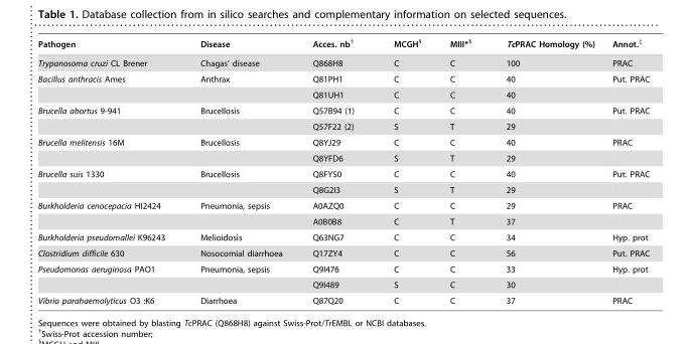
<table><thead><tr><td>Pathogen</td><td>Disease</td><td>Acces. nb†</td><td>MCGH§</td><td>MIII*§</td><td>TcPRAC Homology (%)</td><td>Annot.‡</td></tr></thead><tbody><tr><td>Trypanosoma cruzi CL Brener</td><td>Chagas’ disease</td><td>Q868H8</td><td>C</td><td>C</td><td>100</td><td>PRAC</td></tr><tr><td rowspan="2">Bacillus anthracis Ames</td><td>Anthrax</td><td>Q81PH1</td><td>C</td><td>C</td><td>40</td><td>Put. PRAC</td></tr><tr><td></td><td>Q81UH1</td><td>C</td><td>C</td><td>40</td><td></td></tr><tr><td rowspan="2">Brucella abortus 9-941</td><td>Brucellosis</td><td>Q57B94 (1)</td><td>C</td><td>C</td><td>40</td><td>Put. PRAC</td></tr><tr><td></td><td>Q57F22 (2)</td><td>S</td><td>T</td><td>29</td><td></td></tr><tr><td rowspan="2">Brucella melitensis 16M</td><td>Brucellosis</td><td>Q8YJ29</td><td>C</td><td>C</td><td>40</td><td>PRAC</td></tr><tr><td></td><td>Q8YFD6</td><td>S</td><td>T</td><td>29</td><td></td></tr><tr><td rowspan="2">Brucella suis 1330</td><td>Brucellosis</td><td>Q8FYS0</td><td>C</td><td>C</td><td>40</td><td>Put. PRAC</td></tr><tr><td></td><td>Q8G2I3</td><td>S</td><td>T</td><td>29</td><td></td></tr><tr><td rowspan="2">Burkholderia cenocepacia HI2424</td><td>Pneumonia, sepsis</td><td>A0AZQ0</td><td>C</td><td>C</td><td>29</td><td>PRAC</td></tr><tr><td></td><td>A0B0B8</td><td>C</td><td>T</td><td>37</td><td></td></tr><tr><td>Burkholderia pseudomallei K96243</td><td>Melioidosis</td><td>Q63NG7</td><td>C</td><td>C</td><td>34</td><td>Hyp. prot</td></tr><tr><td>Clostridium difficile 630</td><td>Nosocomial diarrhoea</td><td>Q17ZY4</td><td>C</td><td>C</td><td>56</td><td>Put. PRAC</td></tr><tr><td rowspan="2">Pseudomonas aeruginosa PAO1</td><td>Pneumonia, sepsis</td><td>Q9I476</td><td>C</td><td>C</td><td>33</td><td>Hyp. prot</td></tr><tr><td></td><td>Q9I489</td><td>S</td><td>C</td><td>30</td><td></td></tr><tr><td>Vibrio parahaemolyticus O3 :K6</td><td>Diarrhoea</td><td>Q87Q20</td><td>C</td><td>C</td><td>37</td><td>PRAC</td></tr></tbody></table>